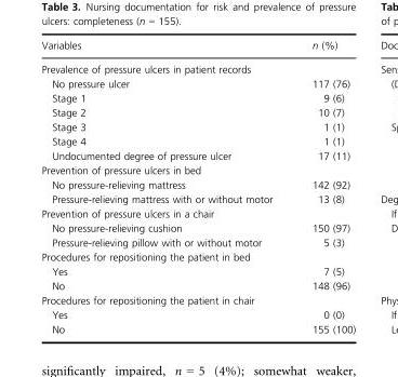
<table><thead><tr><td>Variables</td><td>n (%)</td></tr></thead><tbody><tr><td colspan="2">Prevalence of pressure ulcers in patient records</td></tr><tr><td>No pressure ulcer</td><td>117 (76)</td></tr><tr><td>Stage 1</td><td>9 (6)</td></tr><tr><td>Stage 2</td><td>10 (7)</td></tr><tr><td>Stage 3</td><td>1 (1)</td></tr><tr><td>Stage 4</td><td>1 (1)</td></tr><tr><td>Undocumented degree of pressure ulcer</td><td>17 (11)</td></tr><tr><td colspan="2">Prevention of pressure ulcers in bed</td></tr><tr><td>No pressure-relieving mattress</td><td>142 (92)</td></tr><tr><td>Pressure-relieving mattress with or without motor</td><td>13 (8)</td></tr><tr><td colspan="2">Prevention of pressure ulcers in a chair</td></tr><tr><td>No pressure-relieving cushion</td><td>150 (97)</td></tr><tr><td>Pressure-relieving pillow with or without motor</td><td>5 (3)</td></tr><tr><td colspan="2">Procedures for repositioning the patient in bed</td></tr><tr><td>Yes</td><td>7 (5)</td></tr><tr><td>No</td><td>148 (96)</td></tr><tr><td colspan="2">Procedures for repositioning the patient in chair</td></tr><tr><td>Yes</td><td>0 (0)</td></tr><tr><td>No</td><td>155 (100)</td></tr></tbody></table>